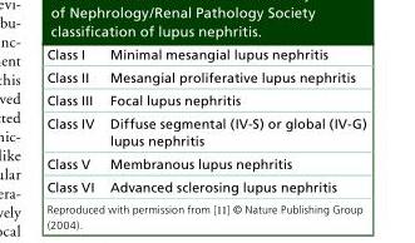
<table><tbody><tr><td>Class I</td><td>Minimal mesangial lupus nephritis</td></tr><tr><td>Class II</td><td>Mesangial proliferative lupus nephritis</td></tr><tr><td>Class III</td><td>Focal lupus nephritis</td></tr><tr><td>Class IV</td><td>Diffuse segmental (IV-S) or global (IV-G) lupus nephritis</td></tr><tr><td>Class V</td><td>Membranous lupus nephritis</td></tr><tr><td>Class VI</td><td>Advanced sclerosing lupus nephritis</td></tr></tbody></table>